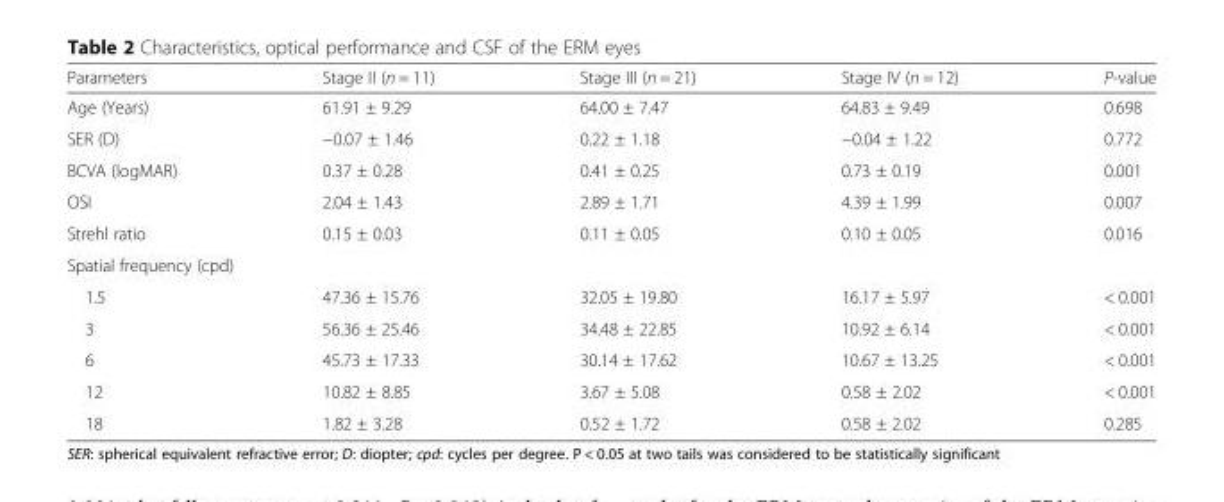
<table><thead><tr><td>Parameters</td><td>Stage II (n = 11)</td><td>Stage III (n = 21)</td><td>Stage IV (n = 12)</td><td>P-value</td></tr></thead><tbody><tr><td>Age (Years)</td><td>61.91 ± 9.29</td><td>64.00 ± 7.47</td><td>64.83 ± 9.49</td><td>0.698</td></tr><tr><td>SER (D)</td><td>−0.07 ± 1.46</td><td>0.22 ± 1.18</td><td>−0.04 ± 1.22</td><td>0.772</td></tr><tr><td>BCVA (logMAR)</td><td>0.37 ± 0.28</td><td>0.41 ± 0.25</td><td>0.73 ± 0.19</td><td>0.001</td></tr><tr><td>OSI</td><td>2.04 ± 1.43</td><td>2.89 ± 1.71</td><td>4.39 ± 1.99</td><td>0.007</td></tr><tr><td>Strehl ratio</td><td>0.15 ± 0.03</td><td>0.11 ± 0.05</td><td>0.10 ± 0.05</td><td>0.016</td></tr><tr><td colspan="5">Spatial frequency (cpd)</td></tr><tr><td>1.5</td><td>47.36 ± 15.76</td><td>32.05 ± 19.80</td><td>16.17 ± 5.97</td><td>&lt; 0.001</td></tr><tr><td>3</td><td>56.36 ± 25.46</td><td>34.48 ± 22.85</td><td>10.92 ± 6.14</td><td>&lt; 0.001</td></tr><tr><td>6</td><td>45.73 ± 17.33</td><td>30.14 ± 17.62</td><td>10.67 ± 13.25</td><td>&lt; 0.001</td></tr><tr><td>12</td><td>10.82 ± 8.85</td><td>3.67 ± 5.08</td><td>0.58 ± 2.02</td><td>&lt; 0.001</td></tr><tr><td>18</td><td>1.82 ± 3.28</td><td>0.52 ± 1.72</td><td>0.58 ± 2.02</td><td>0.285</td></tr></tbody></table>